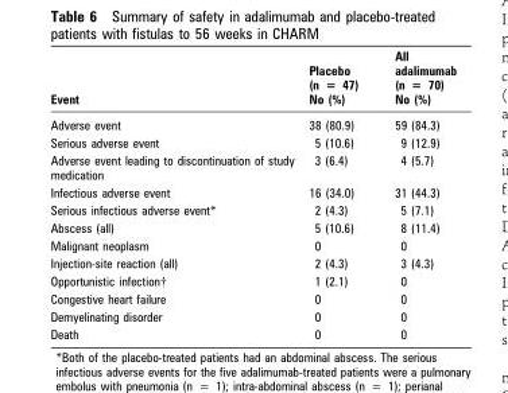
<table><thead><tr><td rowspan="2">Event</td><td rowspan="2">Placebo (n = 47) No (%)</td><td rowspan="2">All adalimumab (n = 70) No (%)</td></tr><tr></tr></thead><tbody><tr><td>Adverse event</td><td>38 (80.9)</td><td>59 (84.3)</td></tr><tr><td>Serious adverse event</td><td>5 (10.6)</td><td>9 (12.9)</td></tr><tr><td>Adverse event leading to discontinuation of study medication</td><td>3 (6.4)</td><td>4 (5.7)</td></tr><tr><td>Infectious adverse event</td><td>16 (34.0)</td><td>31 (44.3)</td></tr><tr><td>Serious infectious adverse event*</td><td>2 (4.3)</td><td>5 (7.1)</td></tr><tr><td>Abscess (all)</td><td>5 (10.6)</td><td>8 (11.4)</td></tr><tr><td>Malignant neoplasm</td><td>0</td><td>0</td></tr><tr><td>Injection-site reaction (all)</td><td>2 (4.3)</td><td>3 (4.3)</td></tr><tr><td>Opportunistic infection†</td><td>1 (2.1)</td><td>0</td></tr><tr><td>Congestive heart failure</td><td>0</td><td>0</td></tr><tr><td>Demyelinating disorder</td><td>0</td><td>0</td></tr><tr><td>Death</td><td>0</td><td>0</td></tr></tbody></table>